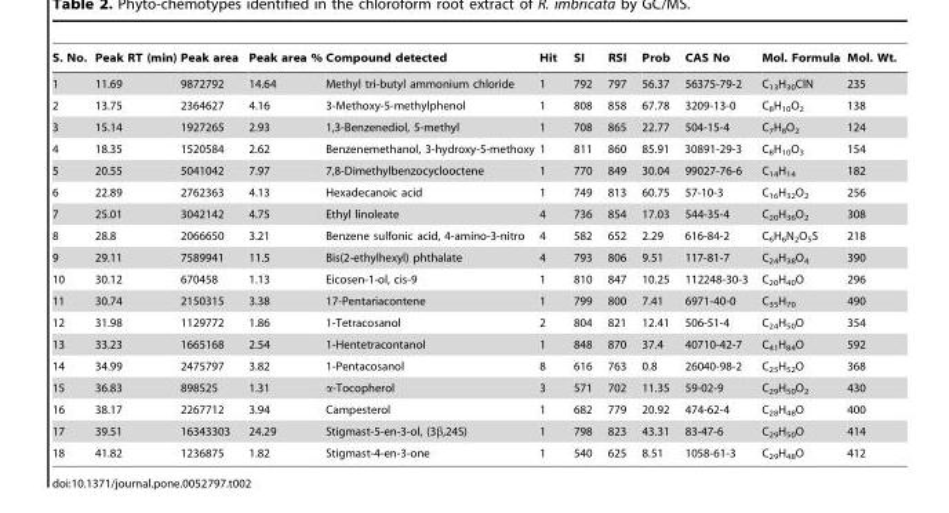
<table><thead><tr><td>S. No.</td><td>Peak RT (min)</td><td>Peak area</td><td>Peak area %</td><td>Compound detected</td><td>Hit</td><td>SI</td><td>RSI</td><td>Prob</td><td>CAS No</td><td>Mol. Formula</td><td>Mol. Wt.</td></tr></thead><tbody><tr><td>1</td><td>11.69</td><td>9872792</td><td>14.64</td><td>Methyl tri-butyl ammonium chloride</td><td>1</td><td>792</td><td>797</td><td>56.37</td><td>56375-79-2</td><td>C<sub>13</sub>H<sub>30</sub>ClN</td><td>235</td></tr><tr><td>2</td><td>13.75</td><td>2364627</td><td>4.16</td><td>3-Methoxy-5-methylphenol</td><td>1</td><td>808</td><td>858</td><td>67.78</td><td>3209-13-0</td><td>C<sub>8</sub>H<sub>10</sub>O<sub>2</sub></td><td>138</td></tr><tr><td>3</td><td>15.14</td><td>1927265</td><td>2.93</td><td>1,3-Benzenediol, 5-methyl</td><td>1</td><td>708</td><td>865</td><td>22.77</td><td>504-15-4</td><td>C<sub>7</sub>H<sub>8</sub>O<sub>2</sub></td><td>124</td></tr><tr><td>4</td><td>18.35</td><td>1520584</td><td>2.62</td><td>Benzenemethanol, 3-hydroxy-5-methoxy</td><td>1</td><td>811</td><td>860</td><td>85.91</td><td>30891-29-3</td><td>C<sub>8</sub>H<sub>10</sub>O<sub>3</sub></td><td>154</td></tr><tr><td>5</td><td>20.55</td><td>5041042</td><td>7.97</td><td>7,8-Dimethylbenzocyclooctene</td><td>1</td><td>770</td><td>849</td><td>30.04</td><td>99027-76-6</td><td>C<sub>14</sub>H<sub>14</sub></td><td>182</td></tr><tr><td>6</td><td>22.89</td><td>2762363</td><td>4.13</td><td>Hexadecanoic acid</td><td>1</td><td>749</td><td>813</td><td>60.75</td><td>57-10-3</td><td>C<sub>16</sub>H<sub>32</sub>O<sub>2</sub></td><td>256</td></tr><tr><td>7</td><td>25.01</td><td>3042142</td><td>4.75</td><td>Ethyl linoleate</td><td>4</td><td>736</td><td>854</td><td>17.03</td><td>544-35-4</td><td>C<sub>20</sub>H<sub>36</sub>O<sub>2</sub></td><td>308</td></tr><tr><td>8</td><td>28.8</td><td>2066650</td><td>3.21</td><td>Benzene sulfonic acid, 4-amino-3-nitro</td><td>4</td><td>582</td><td>652</td><td>2.29</td><td>616-84-2</td><td>C<sub>6</sub>H<sub>6</sub>N<sub>2</sub>O<sub>5</sub>S</td><td>218</td></tr><tr><td>9</td><td>29.11</td><td>7589941</td><td>11.5</td><td>Bis(2-ethylhexyl) phthalate</td><td>4</td><td>793</td><td>806</td><td>9.51</td><td>117-81-7</td><td>C<sub>24</sub>H<sub>38</sub>O<sub>4</sub></td><td>390</td></tr><tr><td>10</td><td>30.12</td><td>670458</td><td>1.13</td><td>Eicosen-1-ol, cis-9</td><td>1</td><td>810</td><td>847</td><td>10.25</td><td>112248-30-3</td><td>C<sub>20</sub>H<sub>40</sub>O</td><td>296</td></tr><tr><td>11</td><td>30.74</td><td>2150315</td><td>3.38</td><td>17-Pentariacontene</td><td>1</td><td>799</td><td>800</td><td>7.41</td><td>6971-40-0</td><td>C<sub>35</sub>H<sub>70</sub></td><td>490</td></tr><tr><td>12</td><td>31.98</td><td>1129772</td><td>1.86</td><td>1-Tetracosanol</td><td>2</td><td>804</td><td>821</td><td>12.41</td><td>506-51-4</td><td>C<sub>24</sub>H<sub>50</sub>O</td><td>354</td></tr><tr><td>13</td><td>33.23</td><td>1665168</td><td>2.54</td><td>1-Hentetracontanol</td><td>1</td><td>848</td><td>870</td><td>37.4</td><td>40710-42-7</td><td>C<sub>41</sub>H<sub>84</sub>O</td><td>592</td></tr><tr><td>14</td><td>34.99</td><td>2475797</td><td>3.82</td><td>1-Pentacosanol</td><td>8</td><td>616</td><td>763</td><td>0.8</td><td>26040-98-2</td><td>C<sub>25</sub>H<sub>52</sub>O</td><td>368</td></tr><tr><td>15</td><td>36.83</td><td>898525</td><td>1.31</td><td>α-Tocopherol</td><td>3</td><td>571</td><td>702</td><td>11.35</td><td>59-02-9</td><td>C<sub>29</sub>H<sub>50</sub>O<sub>2</sub></td><td>430</td></tr><tr><td>16</td><td>38.17</td><td>2267712</td><td>3.94</td><td>Campesterol</td><td>1</td><td>682</td><td>779</td><td>20.92</td><td>474-62-4</td><td>C<sub>28</sub>H<sub>48</sub>O</td><td>400</td></tr><tr><td>17</td><td>39.51</td><td>16343303</td><td>24.29</td><td>Stigmast-5-en-3-ol, (3β,24S)</td><td>1</td><td>798</td><td>823</td><td>43.31</td><td>83-47-6</td><td>C<sub>29</sub>H<sub>50</sub>O</td><td>414</td></tr><tr><td>18</td><td>41.82</td><td>1236875</td><td>1.82</td><td>Stigmast-4-en-3-one</td><td>1</td><td>540</td><td>625</td><td>8.51</td><td>1058-61-3</td><td>C<sub>29</sub>H<sub>48</sub>O</td><td>412</td></tr></tbody></table>